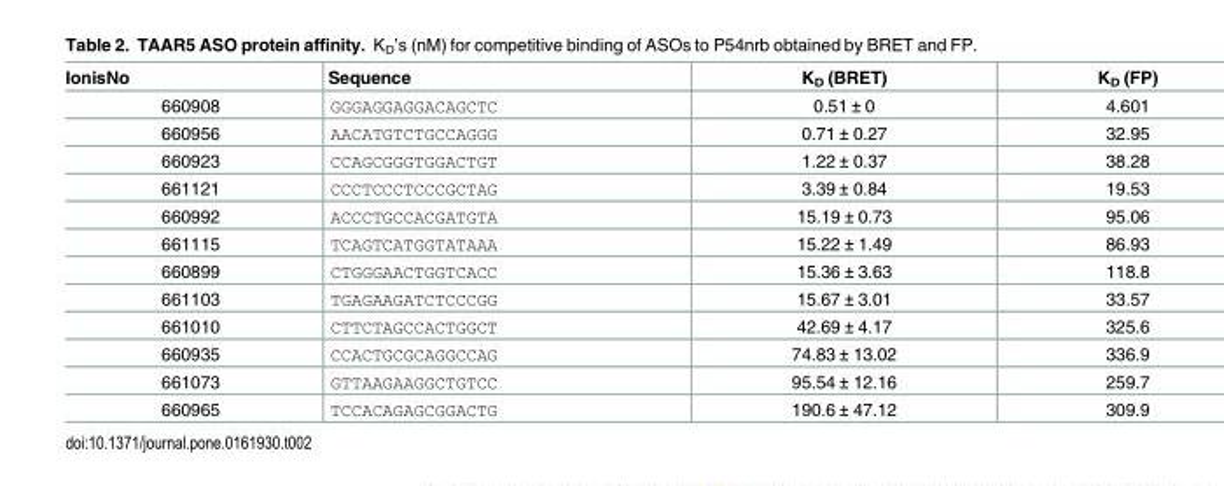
<table><thead><tr><td>IonisNo</td><td>Sequence</td><td>K<sub>D</sub> (BRET)</td><td>K<sub>D</sub> (FP)</td></tr></thead><tbody><tr><td>660908</td><td>GGGAGGAGGACAGCTC</td><td>0.51 ± 0</td><td>4.601</td></tr><tr><td>660956</td><td>AACATGTCTGCCAGGG</td><td>0.71 ± 0.27</td><td>32.95</td></tr><tr><td>660923</td><td>CCAGCGGGTGGACTGT</td><td>1.22 ± 0.37</td><td>38.28</td></tr><tr><td>661121</td><td>CCCTCCCTCCCGCTAG</td><td>3.39 ± 0.84</td><td>19.53</td></tr><tr><td>660992</td><td>ACCCTGCCACGATGTA</td><td>15.19 ± 0.73</td><td>95.06</td></tr><tr><td>661115</td><td>TCAGTCATGGTATAAA</td><td>15.22 ± 1.49</td><td>86.93</td></tr><tr><td>660899</td><td>CTGGGAACTGGTCACC</td><td>15.36 ± 3.63</td><td>118.8</td></tr><tr><td>661103</td><td>TGAGAAGATCTCCCGG</td><td>15.67 ± 3.01</td><td>33.57</td></tr><tr><td>661010</td><td>CTTCTAGCCACTGGCT</td><td>42.69 ± 4.17</td><td>325.6</td></tr><tr><td>660935</td><td>CCACTGCGCAGGCCAG</td><td>74.83 ± 13.02</td><td>336.9</td></tr><tr><td>661073</td><td>GTTAAGAAGGCTGTCC</td><td>95.54 ± 12.16</td><td>259.7</td></tr><tr><td>660965</td><td>TCCACAGAGCGGACTG</td><td>190.6 ± 47.12</td><td>309.9</td></tr></tbody></table>